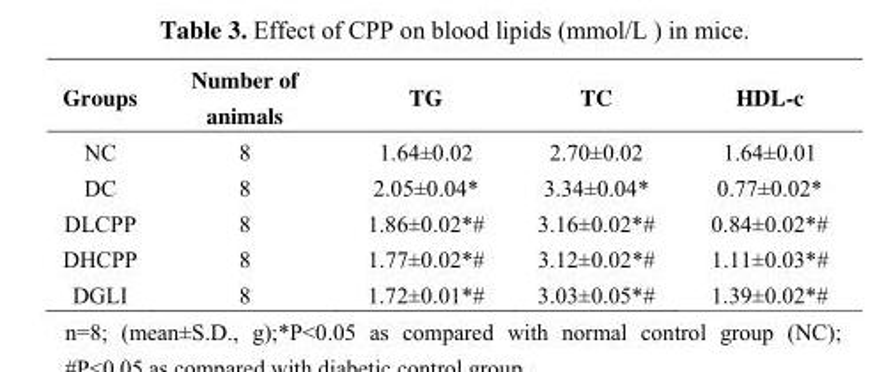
<table><thead><tr><td>Groups</td><td>Number of animals</td><td>TG</td><td>TC</td><td>HDL-c</td></tr></thead><tbody><tr><td>NC</td><td>8</td><td>1.64±0.02</td><td>2.70±0.02</td><td>1.64±0.01</td></tr><tr><td>DC</td><td>8</td><td>2.05±0.04*</td><td>3.34±0.04*</td><td>0.77±0.02*</td></tr><tr><td>DLCPP</td><td>8</td><td>1.86±0.02*#</td><td>3.16±0.02*#</td><td>0.84±0.02*#</td></tr><tr><td>DHCPP</td><td>8</td><td>1.77±0.02*#</td><td>3.12±0.02*#</td><td>1.11±0.03*#</td></tr><tr><td>DGLI</td><td>8</td><td>1.72±0.01*#</td><td>3.03±0.05*#</td><td>1.39±0.02*#</td></tr></tbody></table>